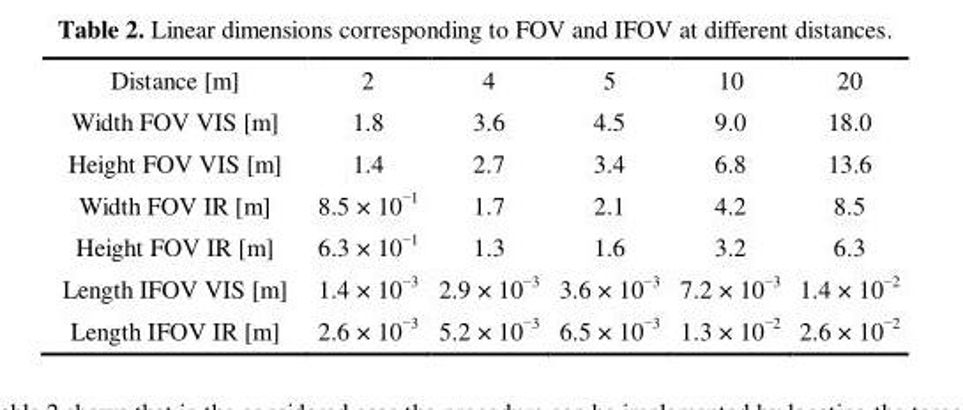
<table><tbody><tr><td>Distance [m]</td><td>2</td><td>4</td><td>5</td><td>10</td><td>20</td></tr><tr><td>Width FOV VIS [m]</td><td>1.8</td><td>3.6</td><td>4.5</td><td>9.0</td><td>18.0</td></tr><tr><td>Height FOV VIS [m]</td><td>1.4</td><td>2.7</td><td>3.4</td><td>6.8</td><td>13.6</td></tr><tr><td>Width FOV IR [m]</td><td>8.5 × 10<sup>−1</sup></td><td>1.7</td><td>2.1</td><td>4.2</td><td>8.5</td></tr><tr><td>Height FOV IR [m]</td><td>6.3 × 10<sup>−1</sup></td><td>1.3</td><td>1.6</td><td>3.2</td><td>6.3</td></tr><tr><td>Length IFOV VIS [m]</td><td>1.4 × 10<sup>−3</sup></td><td>2.9 × 10<sup>−3</sup></td><td>3.6 × 10<sup>−3</sup></td><td>7.2 × 10<sup>−3</sup></td><td>1.4 × 10<sup>−2</sup></td></tr><tr><td>Length IFOV IR [m]</td><td>2.6 × 10<sup>−3</sup></td><td>5.2 × 10<sup>−3</sup></td><td>6.5 × 10<sup>−3</sup></td><td>1.3 × 10<sup>−2</sup></td><td>2.6 × 10<sup>−2</sup></td></tr></tbody></table>